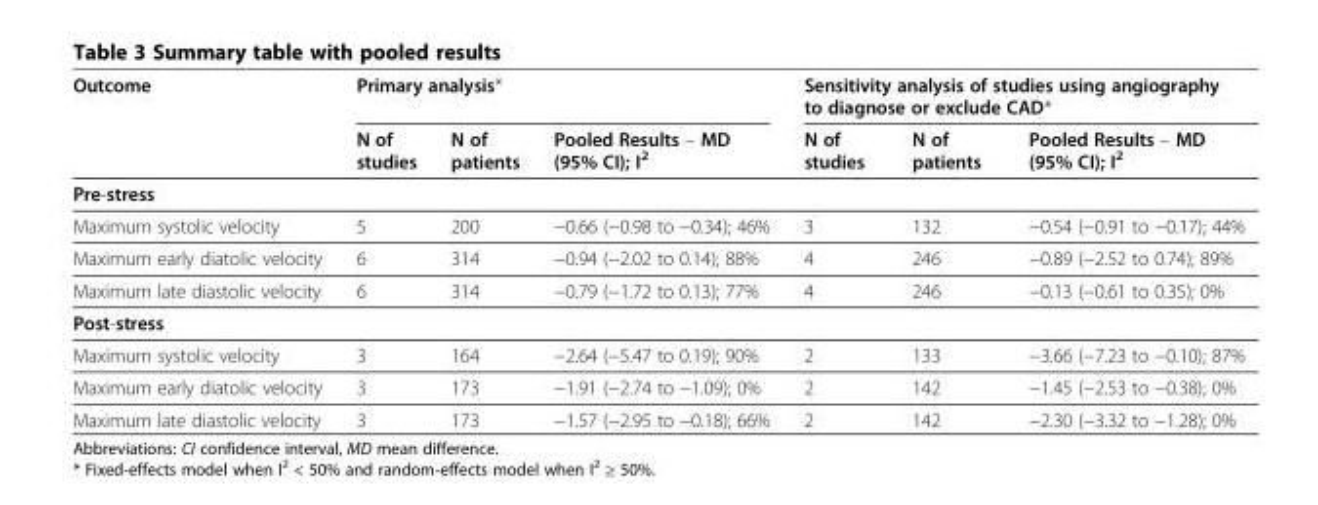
<table><thead><tr><td rowspan="2">Outcome</td><td colspan="3">Primary analysis*</td><td colspan="3">Sensitivity analysis of studies using angiography to diagnose or exclude CAD*</td></tr><tr><td>N of studies</td><td>N of patients</td><td>Pooled Results – MD (95% CI); I<sup>2</sup></td><td>N of studies</td><td>N of patients</td><td>Pooled Results – MD (95% CI); I<sup>2</sup></td></tr></thead><tbody><tr><td colspan="7">Pre-stress</td></tr><tr><td>Maximum systolic velocity</td><td>5</td><td>200</td><td>−0.66 (−0.98 to −0.34); 46%</td><td>3</td><td>132</td><td>−0.54 (−0.91 to −0.17); 44%</td></tr><tr><td>Maximum early diatolic velocity</td><td>6</td><td>314</td><td>−0.94 (−2.02 to 0.14); 88%</td><td>4</td><td>246</td><td>−0.89 (−2.52 to 0.74); 89%</td></tr><tr><td>Maximum late diastolic velocity</td><td>6</td><td>314</td><td>−0.79 (−1.72 to 0.13); 77%</td><td>4</td><td>246</td><td>−0.13 (−0.61 to 0.35); 0%</td></tr><tr><td colspan="7">Post-stress</td></tr><tr><td>Maximum systolic velocity</td><td>3</td><td>164</td><td>−2.64 (−5.47 to 0.19); 90%</td><td>2</td><td>133</td><td>−3.66 (−7.23 to −0.10); 87%</td></tr><tr><td>Maximum early diatolic velocity</td><td>3</td><td>173</td><td>−1.91 (−2.74 to −1.09); 0%</td><td>2</td><td>142</td><td>−1.45 (−2.53 to −0.38); 0%</td></tr><tr><td>Maximum late diastolic velocity</td><td>3</td><td>173</td><td>−1.57 (−2.95 to −0.18); 66%</td><td>2</td><td>142</td><td>−2.30 (−3.32 to −1.28); 0%</td></tr></tbody></table>